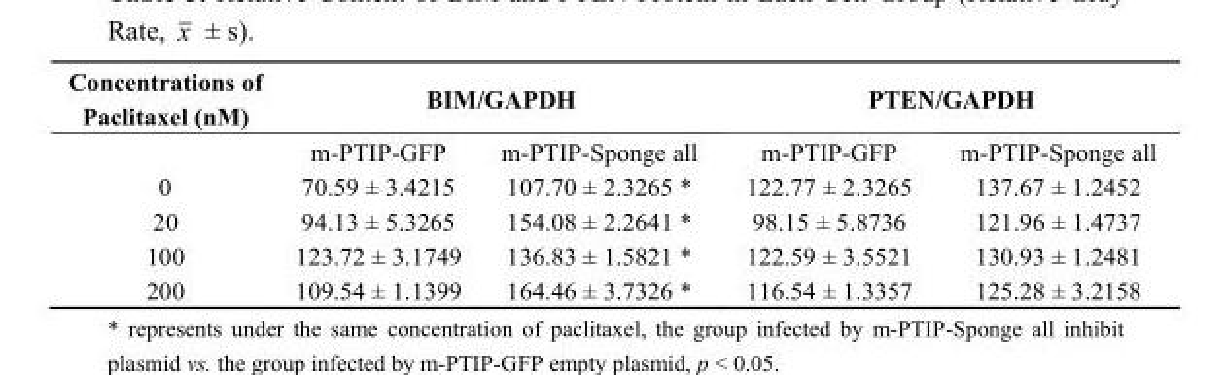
<table><thead><tr><td rowspan="2">Concentrations of Paclitaxel (nM)</td><td colspan="2">BIM/GAPDH</td><td colspan="2">PTEN/GAPDH</td></tr><tr><td>m-PTIP-GFP</td><td>m-PTIP-Sponge all</td><td>m-PTIP-GFP</td><td>m-PTIP-Sponge all</td></tr></thead><tbody><tr><td>0</td><td>70.59 ± 3.4215</td><td>107.70 ± 2.3265 *</td><td>122.77 ± 2.3265</td><td>137.67 ± 1.2452</td></tr><tr><td>20</td><td>94.13 ± 5.3265</td><td>154.08 ± 2.2641 *</td><td>98.15 ± 5.8736</td><td>121.96 ± 1.4737</td></tr><tr><td>100</td><td>123.72 ± 3.1749</td><td>136.83 ± 1.5821 *</td><td>122.59 ± 3.5521</td><td>130.93 ± 1.2481</td></tr><tr><td>200</td><td>109.54 ± 1.1399</td><td>164.46 ± 3.7326 *</td><td>116.54 ± 1.3357</td><td>125.28 ± 3.2158</td></tr></tbody></table>